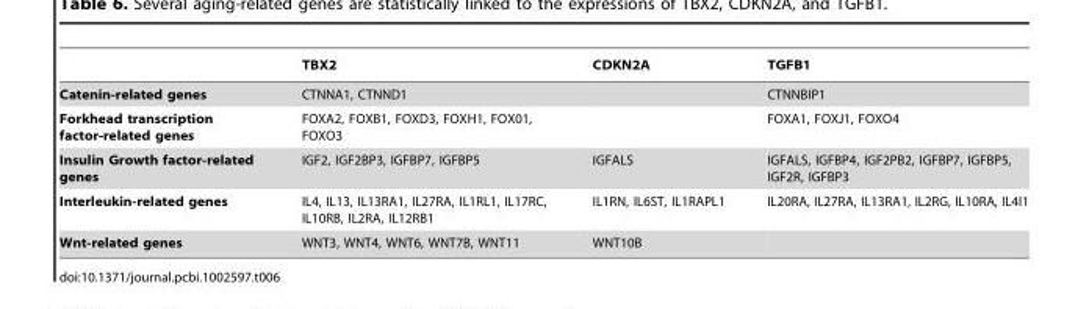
<table><thead><tr><td></td><td>TBX2</td><td>CDKN2A</td><td>TGFB1</td></tr></thead><tbody><tr><td>Catenin-related genes</td><td>CTNNA1, CTNND1</td><td></td><td>CTNNBIP1</td></tr><tr><td>Forkhead transcription factor-related genes</td><td>FOXA2, FOXB1, FOXD3, FOXH1, FOX01, FOXO3</td><td></td><td>FOXA1, FOXJ1, FOXO4</td></tr><tr><td>Insulin Growth factor-related genes</td><td>IGF2, IGF2BP3, IGFBP7, IGFBP5</td><td>IGFALS</td><td>IGFALS, IGFBP4, IGF2PB2, IGFBP7, IGFBP5, IGF2R, IGFBP3</td></tr><tr><td>Interleukin-related genes</td><td>IL4, IL13, IL13RA1, IL27RA, IL1RL1, IL17RC, IL10RB, IL2RA, IL12RB1</td><td>IL1RN, IL6ST, IL1RAPL1</td><td>IL20RA, IL27RA, IL13RA1, IL2RG, IL10RA, IL4I1</td></tr><tr><td>Wnt-related genes</td><td>WNT3, WNT4, WNT6, WNT7B, WNT11</td><td>WNT10B</td><td></td></tr></tbody></table>